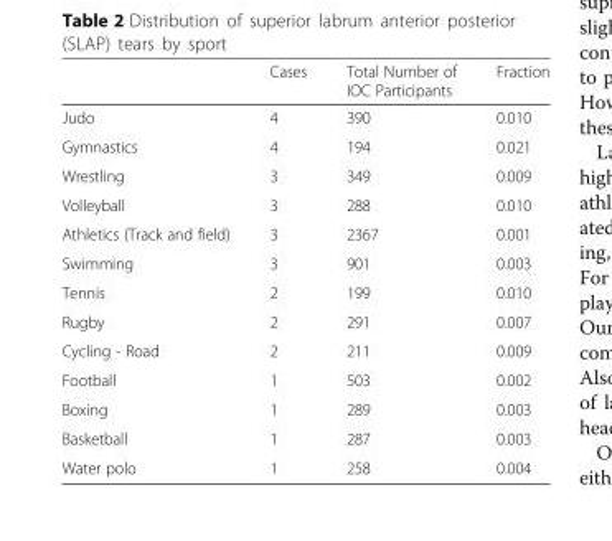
<table><thead><tr><td></td><td>Cases</td><td>Total Number of IOC Participants</td><td>Fraction</td></tr></thead><tbody><tr><td>Judo</td><td>4</td><td>390</td><td>0.010</td></tr><tr><td>Gymnastics</td><td>4</td><td>194</td><td>0.021</td></tr><tr><td>Wrestling</td><td>3</td><td>349</td><td>0.009</td></tr><tr><td>Volleyball</td><td>3</td><td>288</td><td>0.010</td></tr><tr><td>Athletics (Track and field)</td><td>3</td><td>2367</td><td>0.001</td></tr><tr><td>Swimming</td><td>3</td><td>901</td><td>0.003</td></tr><tr><td>Tennis</td><td>2</td><td>199</td><td>0.010</td></tr><tr><td>Rugby</td><td>2</td><td>291</td><td>0.007</td></tr><tr><td>Cycling - Road</td><td>2</td><td>211</td><td>0.009</td></tr><tr><td>Football</td><td>1</td><td>503</td><td>0.002</td></tr><tr><td>Boxing</td><td>1</td><td>289</td><td>0.003</td></tr><tr><td>Basketball</td><td>1</td><td>287</td><td>0.003</td></tr><tr><td>Water polo</td><td>1</td><td>258</td><td>0.004</td></tr></tbody></table>